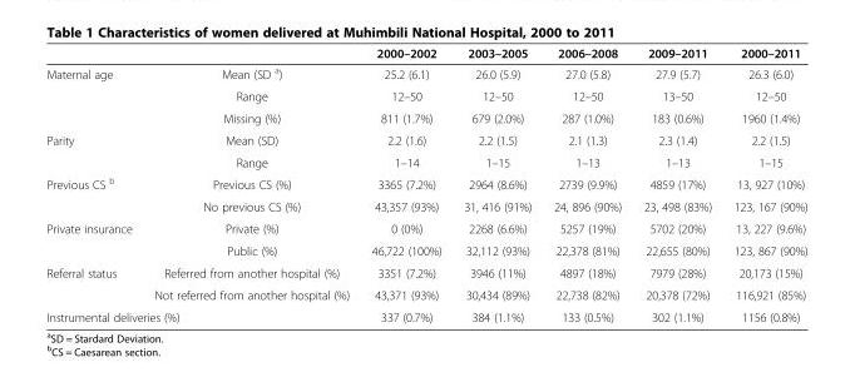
<table><thead><tr><td></td><td></td><td>2000–2002</td><td>2003–2005</td><td>2006–2008</td><td>2009–2011</td><td>2000–2011</td></tr></thead><tbody><tr><td rowspan="3">Maternal age</td><td>Mean (SD <sup>a</sup>)</td><td>25.2 (6.1)</td><td>26.0 (5.9)</td><td>27.0 (5.8)</td><td>27.9 (5.7)</td><td>26.3 (6.0)</td></tr><tr><td>Range</td><td>12–50</td><td>12–50</td><td>12–50</td><td>13–50</td><td>12–50</td></tr><tr><td>Missing (%)</td><td>811 (1.7%)</td><td>679 (2.0%)</td><td>287 (1.0%)</td><td>183 (0.6%)</td><td>1960 (1.4%)</td></tr><tr><td rowspan="2">Parity</td><td>Mean (SD)</td><td>2.2 (1.6)</td><td>2.2 (1.5)</td><td>2.1 (1.3)</td><td>2.3 (1.4)</td><td>2.2 (1.5)</td></tr><tr><td>Range</td><td>1–14</td><td>1–15</td><td>1–13</td><td>1–13</td><td>1–15</td></tr><tr><td rowspan="2">Previous CS <sup>b</sup></td><td>Previous CS (%)</td><td>3365 (7.2%)</td><td>2964 (8.6%)</td><td>2739 (9.9%)</td><td>4859 (17%)</td><td>13, 927 (10%)</td></tr><tr><td>No previous CS (%)</td><td>43,357 (93%)</td><td>31, 416 (91%)</td><td>24, 896 (90%)</td><td>23, 498 (83%)</td><td>123, 167 (90%)</td></tr><tr><td rowspan="2">Private insurance</td><td>Private (%)</td><td>0 (0%)</td><td>2268 (6.6%)</td><td>5257 (19%)</td><td>5702 (20%)</td><td>13, 227 (9.6%)</td></tr><tr><td>Public (%)</td><td>46,722 (100%)</td><td>32,112 (93%)</td><td>22,378 (81%)</td><td>22,655 (80%)</td><td>123, 867 (90%)</td></tr><tr><td rowspan="2">Referral status</td><td>Referred from another hospital (%)</td><td>3351 (7.2%)</td><td>3946 (11%)</td><td>4897 (18%)</td><td>7979 (28%)</td><td>20,173 (15%)</td></tr><tr><td>Not referred from another hospital (%)</td><td>43,371 (93%)</td><td>30,434 (89%)</td><td>22,738 (82%)</td><td>20,378 (72%)</td><td>116,921 (85%)</td></tr><tr><td colspan="2">Instrumental deliveries (%)</td><td>337 (0.7%)</td><td>384 (1.1%)</td><td>133 (0.5%)</td><td>302 (1.1%)</td><td>1156 (0.8%)</td></tr></tbody></table>